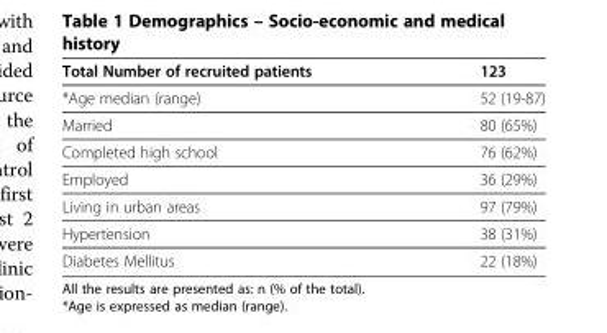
<table><thead><tr><td>Total Number of recruited patients</td><td>123</td></tr></thead><tbody><tr><td>*Age median (range)</td><td>52 (19-87)</td></tr><tr><td>Married</td><td>80 (65%)</td></tr><tr><td>Completed high school</td><td>76 (62%)</td></tr><tr><td>Employed</td><td>36 (29%)</td></tr><tr><td>Living in urban areas</td><td>97 (79%)</td></tr><tr><td>Hypertension</td><td>38 (31%)</td></tr><tr><td>Diabetes Mellitus</td><td>22 (18%)</td></tr></tbody></table>